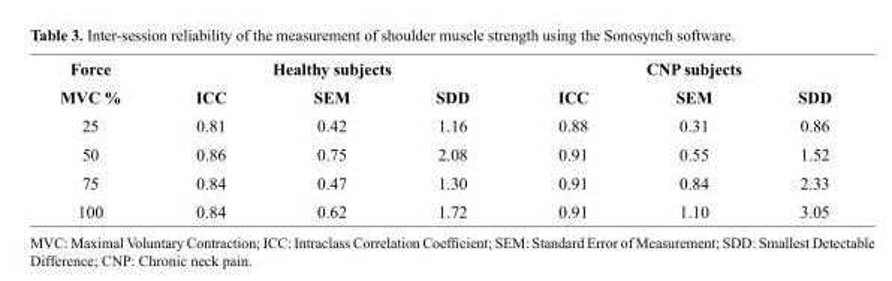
<table><thead><tr><td rowspan="2">Force MVC %</td><td rowspan="2">ICC</td><td rowspan="2">Healthy subjects SEM</td><td rowspan="2">SDD</td><td rowspan="2">ICC</td><td rowspan="2">CNP subjects SEM</td><td rowspan="2">SDD</td></tr><tr></tr></thead><tbody><tr><td>25</td><td>0.81</td><td>0.42</td><td>1.16</td><td>0.88</td><td>0.31</td><td>0.86</td></tr><tr><td>50</td><td>0.86</td><td>0.75</td><td>2.08</td><td>0.91</td><td>0.55</td><td>1.52</td></tr><tr><td>75</td><td>0.84</td><td>0.47</td><td>1.30</td><td>0.91</td><td>0.84</td><td>2.33</td></tr><tr><td>100</td><td>0.84</td><td>0.62</td><td>1.72</td><td>0.91</td><td>1.10</td><td>3.05</td></tr></tbody></table>